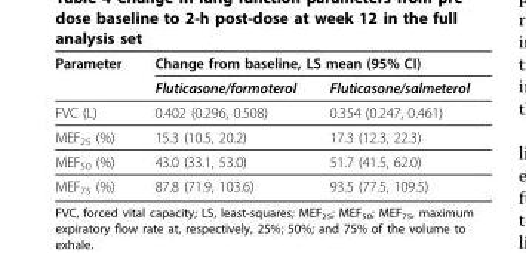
<table><thead><tr><td rowspan="2">Parameter</td><td colspan="2">Change from baseline, LS mean (95% CI)</td></tr><tr><td>Fluticasone/formoterol</td><td>Fluticasone/salmeterol</td></tr></thead><tbody><tr><td>FVC (L)</td><td>0.402 (0.296, 0.508)</td><td>0.354 (0.247, 0.461)</td></tr><tr><td>MEF<sub>25</sub> (%)</td><td>15.3 (10.5, 20.2)</td><td>17.3 (12.3, 22.3)</td></tr><tr><td>MEF<sub>50</sub> (%)</td><td>43.0 (33.1, 53.0)</td><td>51.7 (41.5, 62.0)</td></tr><tr><td>MEF<sub>75</sub> (%)</td><td>87.8 (71.9, 103.6)</td><td>93.5 (77.5, 109.5)</td></tr></tbody></table>